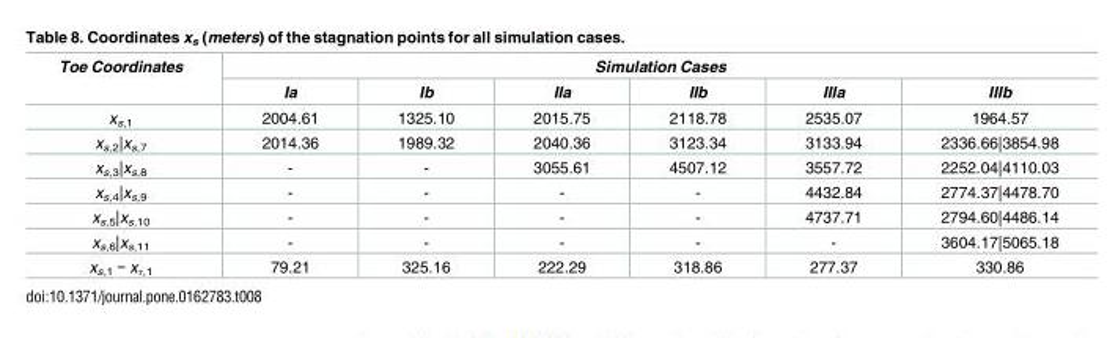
<table><thead><tr><td rowspan="2">Toe Coordinates</td><td colspan="6">Simulation Cases</td></tr><tr><td>Ia</td><td>Ib</td><td>IIa</td><td>IIb</td><td>IIIa</td><td>IIIb</td></tr></thead><tbody><tr><td>x<sub>s,1</sub></td><td>2004.61</td><td>1325.10</td><td>2015.75</td><td>2118.78</td><td>2535.07</td><td>1964.57</td></tr><tr><td>x<sub>s,2</sub>|x<sub>s,7</sub></td><td>2014.36</td><td>1989.32</td><td>2040.36</td><td>3123.34</td><td>3133.94</td><td>2336.66|3854.98</td></tr><tr><td>x<sub>s,3</sub>|x<sub>s,8</sub></td><td>-</td><td>-</td><td>3055.61</td><td>4507.12</td><td>3557.72</td><td>2252.04|4110.03</td></tr><tr><td>x<sub>s,4</sub>|x<sub>s,9</sub></td><td>-</td><td>-</td><td>-</td><td>-</td><td>4432.84</td><td>2774.37|4478.70</td></tr><tr><td>x<sub>s,5</sub>|x<sub>s,10</sub></td><td>-</td><td>-</td><td>-</td><td>-</td><td>4737.71</td><td>2794.60|4486.14</td></tr><tr><td>x<sub>s,6</sub>|x<sub>s,11</sub></td><td>-</td><td>-</td><td>-</td><td>-</td><td>-</td><td>3604.17|5065.18</td></tr><tr><td>x<sub>s,1</sub> − x<sub>τ,1</sub></td><td>79.21</td><td>325.16</td><td>222.29</td><td>318.86</td><td>277.37</td><td>330.86</td></tr></tbody></table>